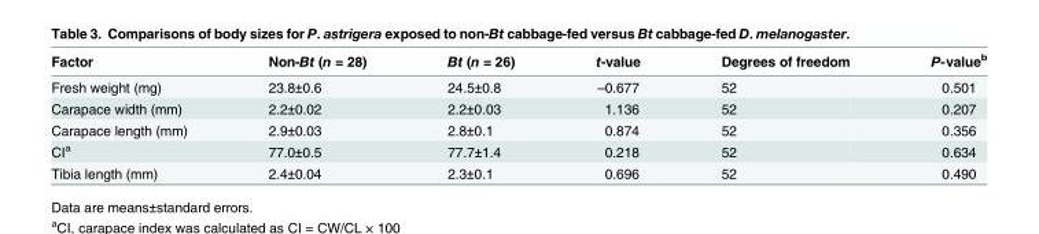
<table><thead><tr><td>Factor</td><td>Non-Bt (n = 28)</td><td>Bt (n = 26)</td><td>t-value</td><td>Degrees of freedom</td><td>P-value<sup>b</sup></td></tr></thead><tbody><tr><td>Fresh weight (mg)</td><td>23.8±0.6</td><td>24.5±0.8</td><td>–0.677</td><td>52</td><td>0.501</td></tr><tr><td>Carapace width (mm)</td><td>2.2±0.02</td><td>2.2±0.03</td><td>1.136</td><td>52</td><td>0.207</td></tr><tr><td>Carapace length (mm)</td><td>2.9±0.03</td><td>2.8±0.1</td><td>0.874</td><td>52</td><td>0.356</td></tr><tr><td>CI<sup>a</sup></td><td>77.0±0.5</td><td>77.7±1.4</td><td>0.218</td><td>52</td><td>0.634</td></tr><tr><td>Tibia length (mm)</td><td>2.4±0.04</td><td>2.3±0.1</td><td>0.696</td><td>52</td><td>0.490</td></tr></tbody></table>